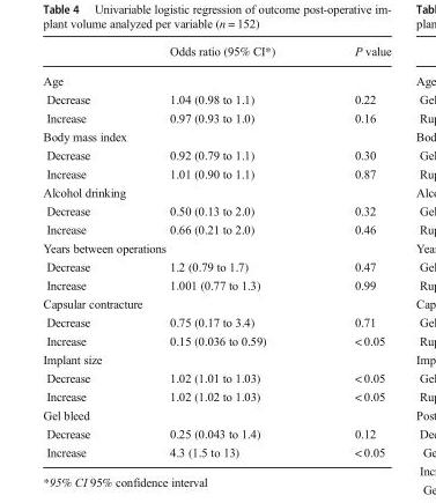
<table><thead><tr><td></td><td>Odds ratio (95% CI*)</td><td>P value</td></tr></thead><tbody><tr><td colspan="3">Age</td></tr><tr><td>Decrease</td><td>1.04 (0.98 to 1.1)</td><td>0.22</td></tr><tr><td>Increase</td><td>0.97 (0.93 to 1.0)</td><td>0.16</td></tr><tr><td colspan="3">Body mass index</td></tr><tr><td>Decrease</td><td>0.92 (0.79 to 1.1)</td><td>0.30</td></tr><tr><td>Increase</td><td>1.01 (0.90 to 1.1)</td><td>0.87</td></tr><tr><td colspan="3">Alcohol drinking</td></tr><tr><td>Decrease</td><td>0.50 (0.13 to 2.0)</td><td>0.32</td></tr><tr><td>Increase</td><td>0.66 (0.21 to 2.0)</td><td>0.46</td></tr><tr><td colspan="3">Years between operations</td></tr><tr><td>Decrease</td><td>1.2 (0.79 to 1.7)</td><td>0.47</td></tr><tr><td>Increase</td><td>1.001 (0.77 to 1.3)</td><td>0.99</td></tr><tr><td colspan="3">Capsular contracture</td></tr><tr><td>Decrease</td><td>0.75 (0.17 to 3.4)</td><td>0.71</td></tr><tr><td>Increase</td><td>0.15 (0.036 to 0.59)</td><td>&lt; 0.05</td></tr><tr><td colspan="3">Implant size</td></tr><tr><td>Decrease</td><td>1.02 (1.01 to 1.03)</td><td>&lt; 0.05</td></tr><tr><td>Increase</td><td>1.02 (1.02 to 1.03)</td><td>&lt; 0.05</td></tr><tr><td colspan="3">Gel bleed</td></tr><tr><td>Decrease</td><td>0.25 (0.043 to 1.4)</td><td>0.12</td></tr><tr><td>Increase</td><td>4.3 (1.5 to 13)</td><td>&lt; 0.05</td></tr></tbody></table>